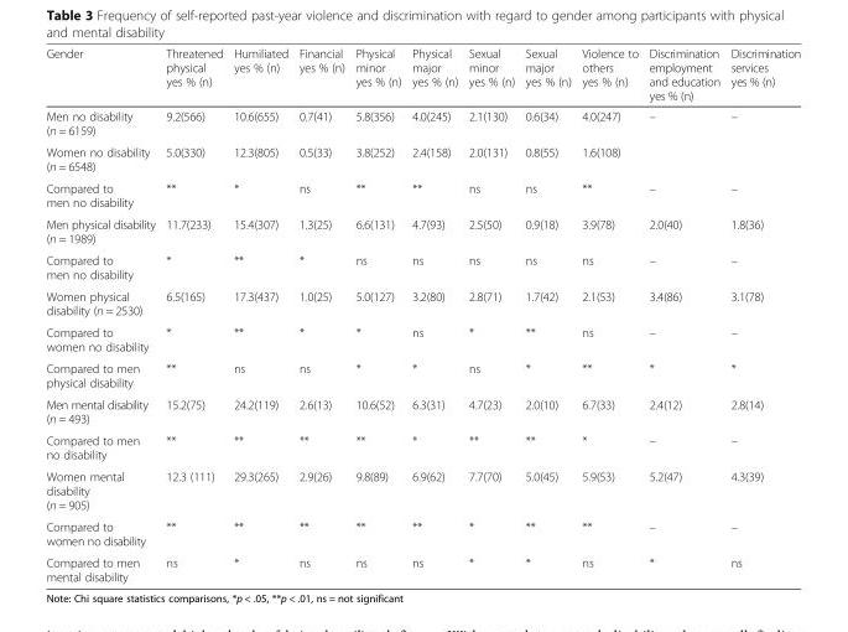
<table><thead><tr><td>Gender</td><td>Threatened physical yes % (n)</td><td>Humiliated yes % (n)</td><td>Financial yes % (n)</td><td>Physical minor yes % (n)</td><td>Physical major yes % (n)</td><td>Sexual minor yes % (n)</td><td>Sexual major yes % (n)</td><td>Violence to others yes % (n)</td><td>Discrimination employment and education yes % (n)</td><td>Discrimination services yes % (n)</td></tr></thead><tbody><tr><td>Men no disability (n = 6159)</td><td>9.2(566)</td><td>10.6(655)</td><td>0.7(41)</td><td>5.8(356)</td><td>4.0(245)</td><td>2.1(130)</td><td>0.6(34)</td><td>4.0(247)</td><td>–</td><td>–</td></tr><tr><td>Women no disability (n = 6548)</td><td>5.0(330)</td><td>12.3(805)</td><td>0.5(33)</td><td>3.8(252)</td><td>2.4(158)</td><td>2.0(131)</td><td>0.8(55)</td><td>1.6(108)</td><td></td><td></td></tr><tr><td>Compared to men no disability</td><td>**</td><td>*</td><td>ns</td><td>**</td><td>**</td><td>ns</td><td>ns</td><td>**</td><td>–</td><td>–</td></tr><tr><td>Men physical disability (n = 1989)</td><td>11.7(233)</td><td>15.4(307)</td><td>1.3(25)</td><td>6.6(131)</td><td>4.7(93)</td><td>2.5(50)</td><td>0.9(18)</td><td>3.9(78)</td><td>2.0(40)</td><td>1.8(36)</td></tr><tr><td>Compared to men no disability</td><td>*</td><td>**</td><td>*</td><td>ns</td><td>ns</td><td>ns</td><td>ns</td><td>ns</td><td>–</td><td>–</td></tr><tr><td>Women physical disability (n = 2530)</td><td>6.5(165)</td><td>17.3(437)</td><td>1.0(25)</td><td>5.0(127)</td><td>3.2(80)</td><td>2.8(71)</td><td>1.7(42)</td><td>2.1(53)</td><td>3.4(86)</td><td>3.1(78)</td></tr><tr><td>Compared to women no disability</td><td>*</td><td>**</td><td>*</td><td>*</td><td>ns</td><td>*</td><td>**</td><td>ns</td><td>–</td><td>–</td></tr><tr><td>Compared to men physical disability</td><td>**</td><td>ns</td><td>ns</td><td>*</td><td>*</td><td>ns</td><td>*</td><td>**</td><td>*</td><td>*</td></tr><tr><td>Men mental disability (n = 493)</td><td>15.2(75)</td><td>24.2(119)</td><td>2.6(13)</td><td>10.6(52)</td><td>6.3(31)</td><td>4.7(23)</td><td>2.0(10)</td><td>6.7(33)</td><td>2.4(12)</td><td>2.8(14)</td></tr><tr><td>Compared to men no disability</td><td>**</td><td>**</td><td>**</td><td>**</td><td>*</td><td>**</td><td>**</td><td>*</td><td>–</td><td>–</td></tr><tr><td>Women mental disability (n = 905)</td><td>12.3 (111)</td><td>29.3(265)</td><td>2.9(26)</td><td>9.8(89)</td><td>6.9(62)</td><td>7.7(70)</td><td>5.0(45)</td><td>5.9(53)</td><td>5.2(47)</td><td>4.3(39)</td></tr><tr><td>Compared to women no disability</td><td>**</td><td>**</td><td>**</td><td>**</td><td>**</td><td>*</td><td>**</td><td>**</td><td>–</td><td>–</td></tr><tr><td>Compared to men mental disability</td><td>ns</td><td>*</td><td>ns</td><td>ns</td><td>ns</td><td>*</td><td>*</td><td>ns</td><td>*</td><td>ns</td></tr></tbody></table>